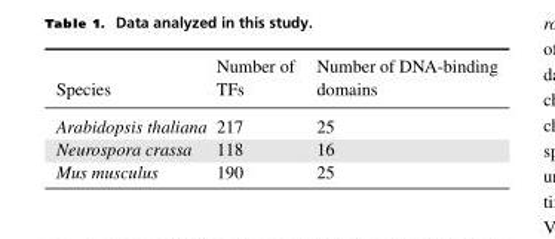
<table><thead><tr><td>Species</td><td>Number of TFs</td><td>Number of DNA-binding domains</td></tr></thead><tbody><tr><td>Arabidopsis thaliana</td><td>217</td><td>25</td></tr><tr><td>Neurospora crassa</td><td>118</td><td>16</td></tr><tr><td>Mus musculus</td><td>190</td><td>25</td></tr></tbody></table>